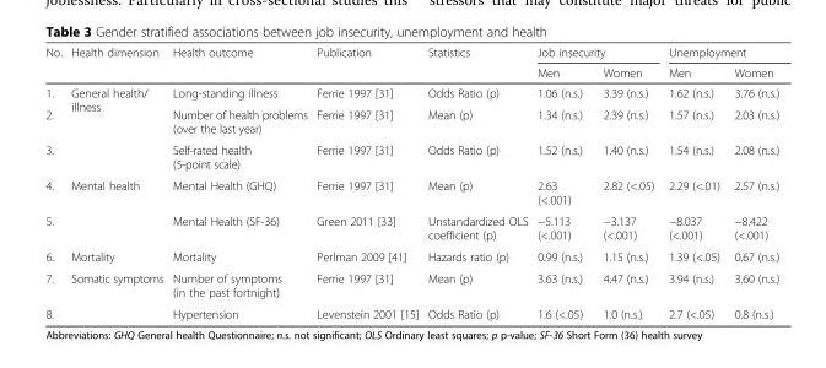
<table><thead><tr><td rowspan="2">No.</td><td rowspan="2">Health dimension</td><td rowspan="2">Health outcome</td><td rowspan="2">Publication</td><td rowspan="2">Statistics</td><td colspan="2">Job insecurity</td><td colspan="2">Unemployment</td></tr><tr><td>Men</td><td>Women</td><td>Men</td><td>Women</td></tr></thead><tbody><tr><td>1.</td><td rowspan="3">General health/ illness</td><td>Long-standing illness</td><td>Ferrie 1997 [31]</td><td>Odds Ratio (p)</td><td>1.06 (n.s.)</td><td>3.39 (n.s.)</td><td>1.62 (n.s.)</td><td>3.76 (n.s.)</td></tr><tr><td>2.</td><td>Number of health problems (over the last year)</td><td>Ferrie 1997 [31]</td><td>Mean (p)</td><td>1.34 (n.s.)</td><td>2.39 (n.s.)</td><td>1.57 (n.s.)</td><td>2.03 (n.s.)</td></tr><tr><td>3.</td><td>Self-rated health (5-point scale)</td><td>Ferrie 1997 [31]</td><td>Odds Ratio (p)</td><td>1.52 (n.s.)</td><td>1.40 (n.s.)</td><td>1.54 (n.s.)</td><td>2.08 (n.s.)</td></tr><tr><td>4.</td><td rowspan="2">Mental health</td><td>Mental Health (GHQ)</td><td>Ferrie 1997 [31]</td><td>Mean (p)</td><td>2.63 (&lt;.001)</td><td>2.82 (&lt;.05)</td><td>2.29 (&lt;.01)</td><td>2.57 (n.s.)</td></tr><tr><td>5.</td><td>Mental Health (SF-36)</td><td>Green 2011 [33]</td><td>Unstandardized OLS coefficient (p)</td><td>−5.113 (&lt;.001)</td><td>−3.137 (&lt;.001)</td><td>−8.037 (&lt;.001)</td><td>−8.422 (&lt;.001)</td></tr><tr><td>6.</td><td>Mortality</td><td>Mortality</td><td>Perlman 2009 [41]</td><td>Hazards ratio (p)</td><td>0.99 (n.s.)</td><td>1.15 (n.s.)</td><td>1.39 (&lt;.05)</td><td>0.67 (n.s.)</td></tr><tr><td>7.</td><td rowspan="2">Somatic symptoms</td><td>Number of symptoms (in the past fortnight)</td><td>Ferrie 1997 [31]</td><td>Mean (p)</td><td>3.63 (n.s.)</td><td>4.47 (n.s.)</td><td>3.94 (n.s.)</td><td>3.60 (n.s.)</td></tr><tr><td>8.</td><td>Hypertension</td><td>Levenstein 2001 [15]</td><td>Odds Ratio (p)</td><td>1.6 (&lt;.05)</td><td>1.0 (n.s.)</td><td>2.7 (&lt;.05)</td><td>0.8 (n.s.)</td></tr></tbody></table>